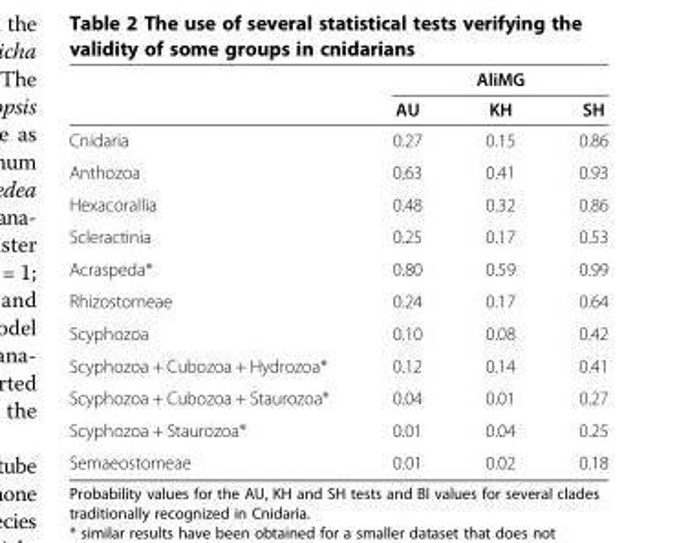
<table><thead><tr><td rowspan="2"></td><td rowspan="2">AU</td><td rowspan="2">AliMG KH</td><td rowspan="2">SH</td></tr><tr></tr></thead><tbody><tr><td>Cnidaria</td><td>0.27</td><td>0.15</td><td>0.86</td></tr><tr><td>Anthozoa</td><td>0.63</td><td>0.41</td><td>0.93</td></tr><tr><td>Hexacorallia</td><td>0.48</td><td>0.32</td><td>0.86</td></tr><tr><td>Scleractinia</td><td>0.25</td><td>0.17</td><td>0.53</td></tr><tr><td>Acraspeda*</td><td>0.80</td><td>0.59</td><td>0.99</td></tr><tr><td>Rhizostomeae</td><td>0.24</td><td>0.17</td><td>0.64</td></tr><tr><td>Scyphozoa</td><td>0.10</td><td>0.08</td><td>0.42</td></tr><tr><td>Scyphozoa + Cubozoa + Hydrozoa*</td><td>0.12</td><td>0.14</td><td>0.41</td></tr><tr><td>Scyphozoa + Cubozoa + Staurozoa*</td><td>0.04</td><td>0.01</td><td>0.27</td></tr><tr><td>Scyphozoa + Staurozoa*</td><td>0.01</td><td>0.04</td><td>0.25</td></tr><tr><td>Semaeostomeae</td><td>0.01</td><td>0.02</td><td>0.18</td></tr></tbody></table>